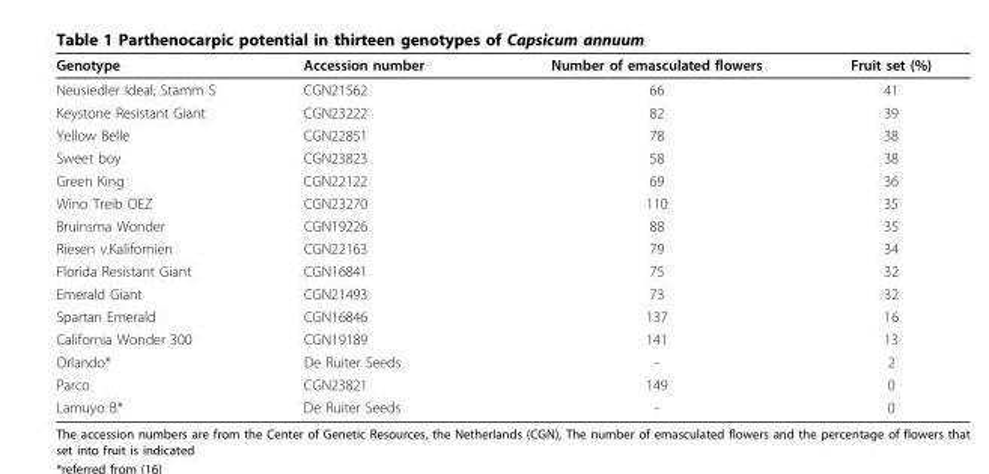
<table><thead><tr><td>Genotype</td><td>Accession number</td><td>Number of emasculated flowers</td><td>Fruit set (%)</td></tr></thead><tbody><tr><td>Neusiedler Ideal; Stamm S</td><td>CGN21562</td><td>66</td><td>41</td></tr><tr><td>Keystone Resistant Giant</td><td>CGN23222</td><td>82</td><td>39</td></tr><tr><td>Yellow Belle</td><td>CGN22851</td><td>78</td><td>38</td></tr><tr><td>Sweet boy</td><td>CGN23823</td><td>58</td><td>38</td></tr><tr><td>Green King</td><td>CGN22122</td><td>69</td><td>36</td></tr><tr><td>Wino Treib OEZ</td><td>CGN23270</td><td>110</td><td>35</td></tr><tr><td>Bruinsma Wonder</td><td>CGN19226</td><td>88</td><td>35</td></tr><tr><td>Riesen v.Kalifornien</td><td>CGN22163</td><td>79</td><td>34</td></tr><tr><td>Florida Resistant Giant</td><td>CGN16841</td><td>75</td><td>32</td></tr><tr><td>Emerald Giant</td><td>CGN21493</td><td>73</td><td>32</td></tr><tr><td>Spartan Emerald</td><td>CGN16846</td><td>137</td><td>16</td></tr><tr><td>California Wonder 300</td><td>CGN19189</td><td>141</td><td>13</td></tr><tr><td>Orlando*</td><td>De Ruiter Seeds</td><td>-</td><td>2</td></tr><tr><td>Parco</td><td>CGN23821</td><td>149</td><td>0</td></tr><tr><td>Lamuyo B*</td><td>De Ruiter Seeds</td><td>-</td><td>0</td></tr></tbody></table>